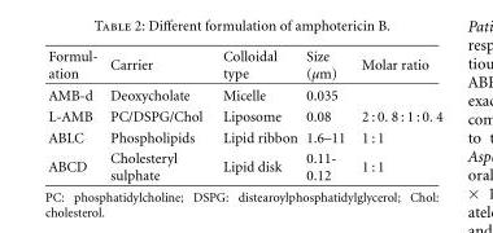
<table><thead><tr><td>Formul- ation</td><td>Carrier</td><td>Colloidal type</td><td>Size (µm)</td><td>Molar ratio</td></tr></thead><tbody><tr><td>AMB-d</td><td>Deoxycholate</td><td>Micelle</td><td>0.035</td><td></td></tr><tr><td>L-AMB</td><td>PC/DSPG/Chol</td><td>Liposome</td><td>0.08</td><td>2 : 0. 8 : 1 : 0. 4</td></tr><tr><td>ABLC</td><td>Phospholipids</td><td>Lipid ribbon</td><td>1.6–11</td><td>1 : 1</td></tr><tr><td>ABCD</td><td>Cholesteryl sulphate</td><td>Lipid disk</td><td>0.11- 0.12</td><td>1 : 1</td></tr></tbody></table>